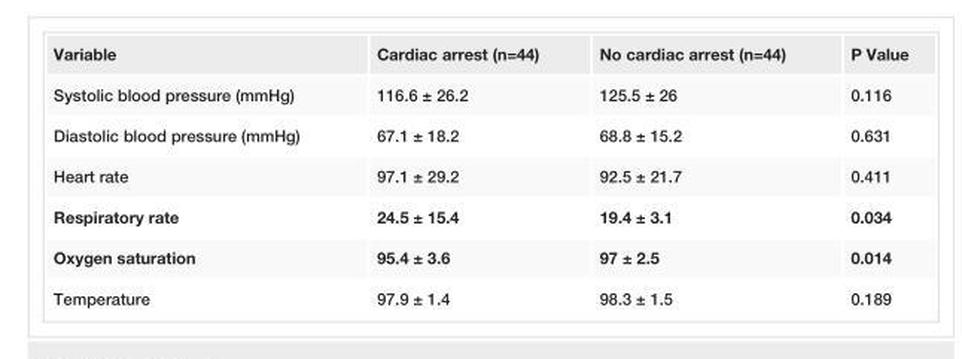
<table><tbody><tr><td>Variable</td><td>Cardiac arrest (n=44)</td><td>No cardiac arrest (n=44)</td><td>P Value</td></tr><tr><td>Systolic blood pressure (mmHg)</td><td>116.6 ± 26.2</td><td>125.5 ± 26</td><td>0.116</td></tr><tr><td>Diastolic blood pressure (mmHg)</td><td>67.1 ± 18.2</td><td>68.8 ± 15.2</td><td>0.631</td></tr><tr><td>Heart rate</td><td>97.1 ± 29.2</td><td>92.5 ± 21.7</td><td>0.411</td></tr><tr><td>Respiratory rate</td><td>24.5 ± 15.4</td><td>19.4 ± 3.1</td><td>0.034</td></tr><tr><td>Oxygen saturation</td><td>95.4 ± 3.6</td><td>97 ± 2.5</td><td>0.014</td></tr><tr><td>Temperature</td><td>97.9 ± 1.4</td><td>98.3 ± 1.5</td><td>0.189</td></tr></tbody></table>